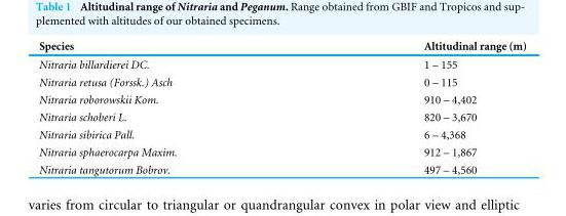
<table><thead><tr><td>Species</td><td>Altitudinal range (m)</td></tr></thead><tbody><tr><td>Nitraria billardierei DC.</td><td>1 – 155</td></tr><tr><td>Nitraria retusa (Forssk.) Asch</td><td>0 – 115</td></tr><tr><td>Nitraria roborowskii Kom.</td><td>910 – 4,402</td></tr><tr><td>Nitraria schoberi L.</td><td>820 – 3,670</td></tr><tr><td>Nitraria sibirica Pall.</td><td>6 – 4,368</td></tr><tr><td>Nitraria sphaerocarpa Maxim.</td><td>912 – 1,867</td></tr><tr><td>Nitraria tangutorum Bobrov.</td><td>497 – 4,560</td></tr></tbody></table>